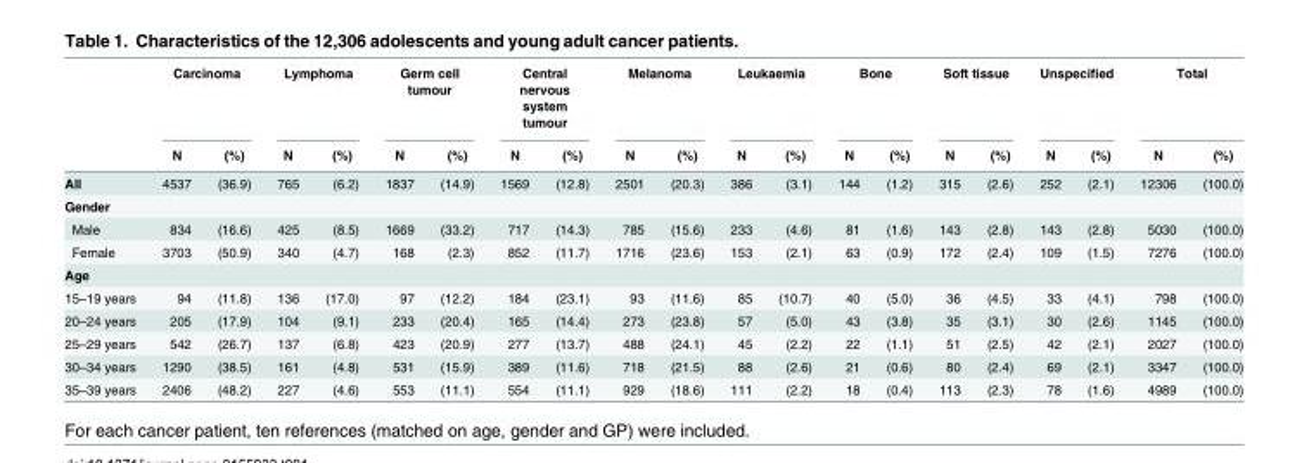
<table><thead><tr><td rowspan="2"></td><td colspan="2">Carcinoma</td><td colspan="2">Lymphoma</td><td colspan="2">Germ cell tumour</td><td colspan="2">Central nervous system tumour</td><td colspan="2">Melanoma</td><td colspan="2">Leukaemia</td><td colspan="2">Bone</td><td colspan="2">Soft tissue</td><td colspan="2">Unspecified</td><td colspan="2">Total</td></tr><tr><td>N</td><td>(%)</td><td>N</td><td>(%)</td><td>N</td><td>(%)</td><td>N</td><td>(%)</td><td>N</td><td>(%)</td><td>N</td><td>(%)</td><td>N</td><td>(%)</td><td>N</td><td>(%)</td><td>N</td><td>(%)</td><td>N</td><td>(%)</td></tr></thead><tbody><tr><td>All</td><td>4537</td><td>(36.9)</td><td>765</td><td>(6.2)</td><td>1837</td><td>(14.9)</td><td>1569</td><td>(12.8)</td><td>2501</td><td>(20.3)</td><td>386</td><td>(3.1)</td><td>144</td><td>(1.2)</td><td>315</td><td>(2.6)</td><td>252</td><td>(2.1)</td><td>12306</td><td>(100.0)</td></tr><tr><td colspan="21">Gender</td></tr><tr><td>Male</td><td>834</td><td>(16.6)</td><td>425</td><td>(8.5)</td><td>1669</td><td>(33.2)</td><td>717</td><td>(14.3)</td><td>785</td><td>(15.6)</td><td>233</td><td>(4.6)</td><td>81</td><td>(1.6)</td><td>143</td><td>(2.8)</td><td>143</td><td>(2.8)</td><td>5030</td><td>(100.0)</td></tr><tr><td>Female</td><td>3703</td><td>(50.9)</td><td>340</td><td>(4.7)</td><td>168</td><td>(2.3)</td><td>852</td><td>(11.7)</td><td>1716</td><td>(23.6)</td><td>153</td><td>(2.1)</td><td>63</td><td>(0.9)</td><td>172</td><td>(2.4)</td><td>109</td><td>(1.5)</td><td>7276</td><td>(100.0)</td></tr><tr><td colspan="21">Age</td></tr><tr><td>15–19 years</td><td>94</td><td>(11.8)</td><td>136</td><td>(17.0)</td><td>97</td><td>(12.2)</td><td>184</td><td>(23.1)</td><td>93</td><td>(11.6)</td><td>85</td><td>(10.7)</td><td>40</td><td>(5.0)</td><td>36</td><td>(4.5)</td><td>33</td><td>(4.1)</td><td>798</td><td>(100.0)</td></tr><tr><td>20–24 years</td><td>205</td><td>(17.9)</td><td>104</td><td>(9.1)</td><td>233</td><td>(20.4)</td><td>165</td><td>(14.4)</td><td>273</td><td>(23.8)</td><td>57</td><td>(5.0)</td><td>43</td><td>(3.8)</td><td>35</td><td>(3.1)</td><td>30</td><td>(2.6)</td><td>1145</td><td>(100.0)</td></tr><tr><td>25–29 years</td><td>542</td><td>(26.7)</td><td>137</td><td>(6.8)</td><td>423</td><td>(20.9)</td><td>277</td><td>(13.7)</td><td>488</td><td>(24.1)</td><td>45</td><td>(2.2)</td><td>22</td><td>(1.1)</td><td>51</td><td>(2.5)</td><td>42</td><td>(2.1)</td><td>2027</td><td>(100.0)</td></tr><tr><td>30–34 years</td><td>1290</td><td>(38.5)</td><td>161</td><td>(4.8)</td><td>531</td><td>(15.9)</td><td>389</td><td>(11.6)</td><td>718</td><td>(21.5)</td><td>88</td><td>(2.6)</td><td>21</td><td>(0.6)</td><td>80</td><td>(2.4)</td><td>69</td><td>(2.1)</td><td>3347</td><td>(100.0)</td></tr><tr><td>35–39 years</td><td>2406</td><td>(48.2)</td><td>227</td><td>(4.6)</td><td>553</td><td>(11.1)</td><td>554</td><td>(11.1)</td><td>929</td><td>(18.6)</td><td>111</td><td>(2.2)</td><td>18</td><td>(0.4)</td><td>113</td><td>(2.3)</td><td>78</td><td>(1.6)</td><td>4989</td><td>(100.0)</td></tr></tbody></table>